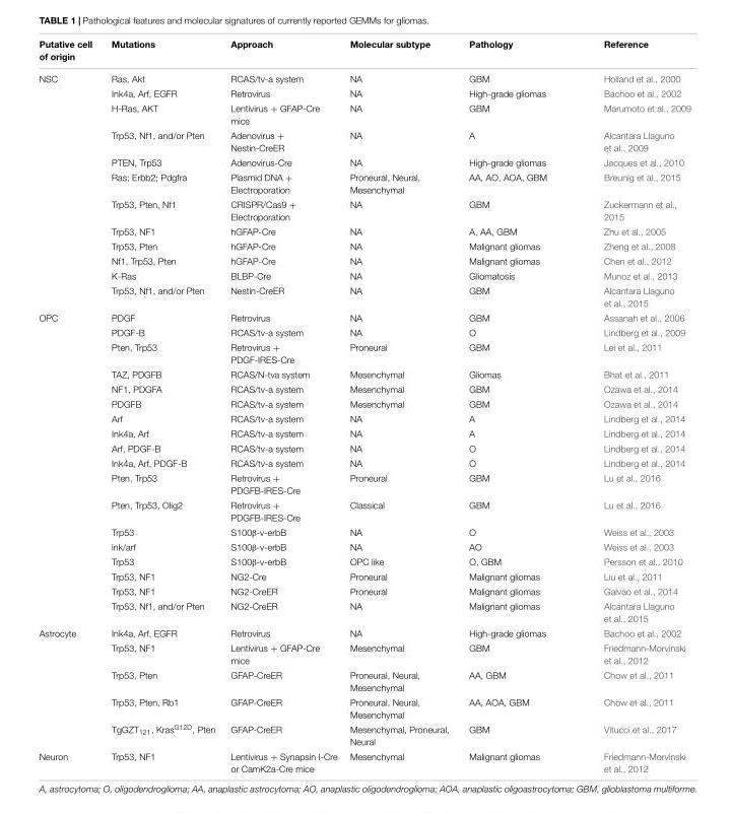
<table><thead><tr><td>Putative cell of origin</td><td>Mutations</td><td>Approach</td><td>Molecular subtype</td><td>Pathology</td><td>Reference</td></tr></thead><tbody><tr><td rowspan="12">NSC</td><td>Ras, Akt</td><td>RCAS/tv-a system</td><td>NA</td><td>GBM</td><td>Holland et al., 2000</td></tr><tr><td>Ink4a, Arf, EGFR</td><td>Retrovirus</td><td>NA</td><td>High-grade gliomas</td><td>Bachoo et al., 2002</td></tr><tr><td>H-Ras, AKT</td><td>Lentivirus + GFAP-Cre mice</td><td>NA</td><td>GBM</td><td>Marumoto et al., 2009</td></tr><tr><td>Trp53, Nf1, and/or Pten</td><td>Adenovirus + Nestin-CreER</td><td>NA</td><td>A</td><td>Alcantara Llaguno et al., 2009</td></tr><tr><td>PTEN, Trp53</td><td>Adenovirus-Cre</td><td>NA</td><td>High-grade gliomas</td><td>Jacques et al., 2010</td></tr><tr><td>Ras; Erbb2; Pdgfra</td><td>Plasmid DNA + Electroporation</td><td>Proneural, Neural, Mesenchymal</td><td>AA, AO, AOA, GBM</td><td>Breunig et al., 2015</td></tr><tr><td>Trp53, Pten, Nf1</td><td>CRISPR/Cas9 + Electroporation</td><td>NA</td><td>GBM</td><td>Zuckermann et al., 2015</td></tr><tr><td>Trp53, NF1</td><td>hGFAP-Cre</td><td>NA</td><td>A, AA, GBM</td><td>Zhu et al., 2005</td></tr><tr><td>Trp53, Pten</td><td>hGFAP-Cre</td><td>NA</td><td>Malignant gliomas</td><td>Zheng et al., 2008</td></tr><tr><td>Nf1, Trp53, Pten</td><td>hGFAP-Cre</td><td>NA</td><td>Malignant gliomas</td><td>Chen et al., 2012</td></tr><tr><td>K-Ras</td><td>BLBP-Cre</td><td>NA</td><td>Gliomatosis</td><td>Munoz et al., 2013</td></tr><tr><td>Trp53, Nf1, and/or Pten</td><td>Nestin-CreER</td><td>NA</td><td>GBM</td><td>Alcantara Llaguno et al., 2015</td></tr><tr><td rowspan="18">OPC</td><td>PDGF</td><td>Retrovirus</td><td>NA</td><td>GBM</td><td>Assanah et al., 2006</td></tr><tr><td>PDGF-B</td><td>RCAS/tv-a system</td><td>NA</td><td>O</td><td>Lindberg et al., 2009</td></tr><tr><td>Pten, Trp53</td><td>Retrovirus + PDGF-IRES-Cre</td><td>Proneural</td><td>GBM</td><td>Lei et al., 2011</td></tr><tr><td>TAZ, PDGFB</td><td>RCAS/N-tva system</td><td>Mesenchymal</td><td>Gliomas</td><td>Bhat et al., 2011</td></tr><tr><td>NF1, PDGFA</td><td>RCAS/tv-a system</td><td>Mesenchymal</td><td>GBM</td><td>Ozawa et al., 2014</td></tr><tr><td>PDGFB</td><td>RCAS/tv-a system</td><td>Mesenchymal</td><td>GBM</td><td>Ozawa et al., 2014</td></tr><tr><td>Arf</td><td>RCAS/tv-a system</td><td>NA</td><td>A</td><td>Lindberg et al., 2014</td></tr><tr><td>Ink4a, Arf</td><td>RCAS/tv-a system</td><td>NA</td><td>A</td><td>Lindberg et al., 2014</td></tr><tr><td>Arf, PDGF-B</td><td>RCAS/tv-a system</td><td>NA</td><td>O</td><td>Lindberg et al., 2014</td></tr><tr><td>Ink4a, Arf, PDGF-B</td><td>RCAS/tv-a system</td><td>NA</td><td>O</td><td>Lindberg et al., 2014</td></tr><tr><td>Pten, Trp53</td><td>Retrovirus + PDGFB-IRES-Cre</td><td>Proneural</td><td>GBM</td><td>Lu et al., 2016</td></tr><tr><td>Pten, Trp53, Olig2</td><td>Retrovirus + PDGFB-IRES-Cre</td><td>Classical</td><td>GBM</td><td>Lu et al., 2016</td></tr><tr><td>Trp53</td><td>S100β-v-erbB</td><td>NA</td><td>O</td><td>Weiss et al., 2003</td></tr><tr><td>ink/arf</td><td>S100β-v-erbB</td><td>NA</td><td>AO</td><td>Weiss et al., 2003</td></tr><tr><td>Trp53</td><td>S100β-v-erbB</td><td>OPC like</td><td>O, GBM</td><td>Persson et al., 2010</td></tr><tr><td>Trp53, NF1</td><td>NG2-Cre</td><td>Proneural</td><td>Malignant gliomas</td><td>Liu et al., 2011</td></tr><tr><td>Trp53, NF1</td><td>NG2-CreER</td><td>Proneural</td><td>Malignant gliomas</td><td>Galvao et al., 2014</td></tr><tr><td>Trp53, Nf1, and/or Pten</td><td>NG2-CreER</td><td>NA</td><td>Malignant gliomas</td><td>Alcantara Llaguno et al., 2015</td></tr><tr><td rowspan="5">Astrocyte</td><td>Ink4a, Arf, EGFR</td><td>Retrovirus</td><td>NA</td><td>High-grade gliomas</td><td>Bachoo et al., 2002</td></tr><tr><td>Trp53, NF1</td><td>Lentivirus + GFAP-Cre mice</td><td>Mesenchymal</td><td>GBM</td><td>Friedmann-Morvinski et al., 2012</td></tr><tr><td>Trp53, Pten</td><td>GFAP-CreER</td><td>Proneural, Neural, Mesenchymal</td><td>AA, GBM</td><td>Chow et al., 2011</td></tr><tr><td>Trp53, Pten, Rb1</td><td>GFAP-CreER</td><td>Proneural, Neural, Mesenchymal</td><td>AA, AOA, GBM</td><td>Chow et al., 2011</td></tr><tr><td>TgGZT<sub>121</sub>, Kras<sup>G12D</sup>, Pten</td><td>GFAP-CreER</td><td>Mesenchymal, Proneural, Neural</td><td>GBM</td><td>Vitucci et al., 2017</td></tr><tr><td>Neuron</td><td>Trp53, NF1</td><td>Lentivirus + Synapsin I-Cre or CamK2a-Cre mice</td><td>Mesenchymal</td><td>Malignant gliomas</td><td>Friedmann-Morvinski et al., 2012</td></tr></tbody></table>